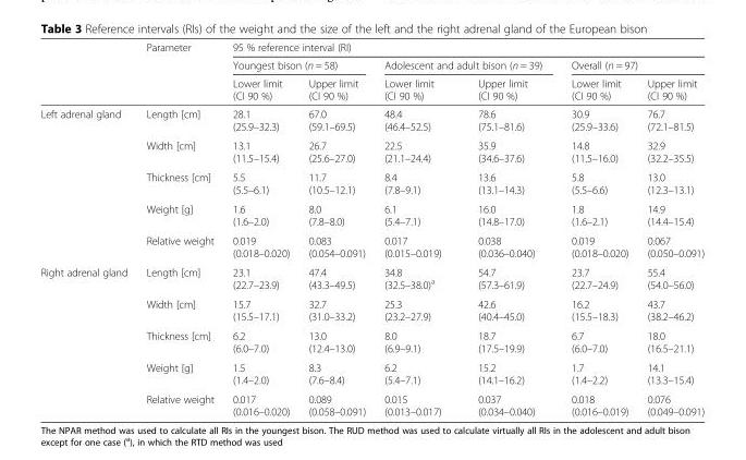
<table><thead><tr><td rowspan="3"></td><td rowspan="3">Parameter</td><td colspan="6">95 % reference interval (RI)</td></tr><tr><td colspan="2">Youngest bison (n = 58)</td><td colspan="2">Adolescent and adult bison (n = 39)</td><td colspan="2">Overall (n = 97)</td></tr><tr><td>Lower limit (CI 90 %)</td><td>Upper limit (CI 90 %)</td><td>Lower limit (CI 90 %)</td><td>Upper limit (CI 90 %)</td><td>Lower limit (CI 90 %)</td><td>Upper limit (CI 90 %)</td></tr></thead><tbody><tr><td rowspan="5">Left adrenal gland</td><td>Length [cm]</td><td>28.1 (25.9–32.3)</td><td>67.0 (59.1–69.5)</td><td>48.4 (46.4–52.5)</td><td>78.6 (75.1–81.6)</td><td>30.9 (25.9–33.6)</td><td>76.7 (72.1–81.5)</td></tr><tr><td>Width [cm]</td><td>13.1 (11.5–15.4)</td><td>26.7 (25.6–27.0)</td><td>22.5 (21.1–24.4)</td><td>35.9 (34.6–37.6)</td><td>14.8 (11.5–16.0)</td><td>32.9 (32.2–35.5)</td></tr><tr><td>Thickness [cm]</td><td>5.5 (5.5–6.1)</td><td>11.7 (10.5–12.1)</td><td>8.4 (7.8–9.1)</td><td>13.6 (13.1–14.3)</td><td>5.8 (5.5–6.6)</td><td>13.0 (12.3–13.1)</td></tr><tr><td>Weight [g]</td><td>1.6 (1.6–2.0)</td><td>8.0 (7.8–8.0)</td><td>6.1 (5.4–7.1)</td><td>16.0 (14.8–17.0)</td><td>1.8 (1.6–2.1)</td><td>14.9 (14.4–15.4)</td></tr><tr><td>Relative weight</td><td>0.019 (0.018–0.020)</td><td>0.083 (0.054–0.091)</td><td>0.017 (0.015–0.019)</td><td>0.038 (0.036–0.040)</td><td>0.019 (0.018–0.020)</td><td>0.067 (0.050–0.091)</td></tr><tr><td rowspan="5">Right adrenal gland</td><td>Length [cm]</td><td>23.1 (22.7–23.9)</td><td>47.4 (43.3–49.5)</td><td>34.8 (32.5–38.0)<sup>a</sup></td><td>54.7 (57.3–61.9)</td><td>23.7 (22.7–24.9)</td><td>55.4 (54.0–56.0)</td></tr><tr><td>Width [cm]</td><td>15.7 (15.5–17.1)</td><td>32.7 (31.0–33.2)</td><td>25.3 (23.2–27.9)</td><td>42.6 (40.4–45.0)</td><td>16.2 (15.5–18.3)</td><td>43.7 (38.2–46.2)</td></tr><tr><td>Thickness [cm]</td><td>6.2 (6.0–7.0)</td><td>13.0 (12.4–13.0)</td><td>8.0 (6.9–9.1)</td><td>18.7 (17.5–19.9)</td><td>6.7 (6.0–7.0)</td><td>18.0 (16.5–21.1)</td></tr><tr><td>Weight [g]</td><td>1.5 (1.4–2.0)</td><td>8.3 (7.6–8.4)</td><td>6.2 (5.4–7.1)</td><td>15.2 (14.1–16.2)</td><td>1.7 (1.4–2.2)</td><td>14.1 (13.3–15.4)</td></tr><tr><td>Relative weight</td><td>0.017 (0.016–0.020)</td><td>0.089 (0.058–0.091)</td><td>0.015 (0.013–0.017)</td><td>0.037 (0.034–0.040)</td><td>0.018 (0.016–0.019)</td><td>0.076 (0.049–0.091)</td></tr></tbody></table>